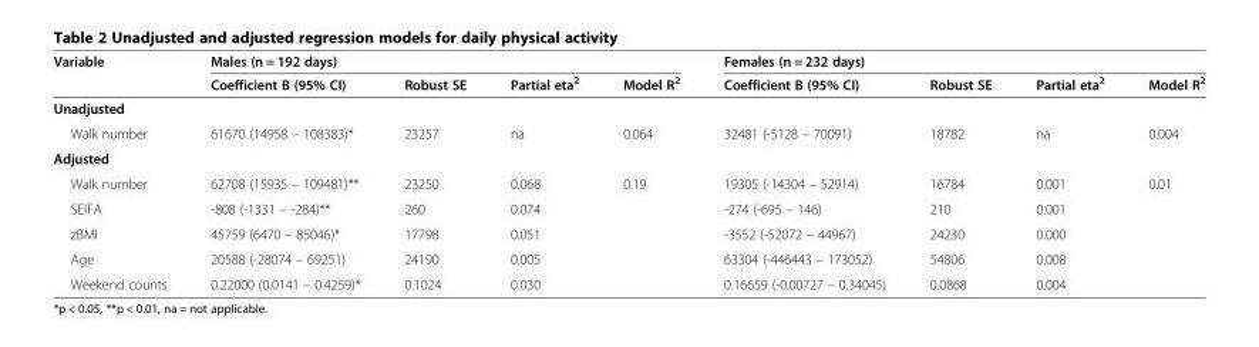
<table><thead><tr><td rowspan="2">Variable</td><td colspan="4">Males (n = 192 days)</td><td colspan="4">Females (n = 232 days)</td></tr><tr><td>Coefficient B (95% CI)</td><td>Robust SE</td><td>Partial eta<sup>2</sup></td><td>Model R<sup>2</sup></td><td>Coefficient B (95% CI)</td><td>Robust SE</td><td>Partial eta<sup>2</sup></td><td>Model R<sup>2</sup></td></tr></thead><tbody><tr><td colspan="9">Unadjusted</td></tr><tr><td>Walk number</td><td>61670 (14958 – 108383)*</td><td>23257</td><td>na</td><td>0.064</td><td>32481 (-5128 – 70091)</td><td>18782</td><td>na</td><td>0.004</td></tr><tr><td colspan="9">Adjusted</td></tr><tr><td>Walk number</td><td>62708 (15935 – 109481)**</td><td>23250</td><td>0.068</td><td>0.19</td><td>19305 (-14304 – 52914)</td><td>16784</td><td>0.001</td><td>0.01</td></tr><tr><td>SEIFA</td><td>-808 (-1331 – -284)**</td><td>260</td><td>0.074</td><td></td><td>-274 (-695 – 146)</td><td>210</td><td>0.001</td><td></td></tr><tr><td>zBMI</td><td>45759 (6470 – 85046)*</td><td>17798</td><td>0.051</td><td></td><td>-3552 (-52072 – 44967)</td><td>24230</td><td>0.000</td><td></td></tr><tr><td>Age</td><td>20588 (-28074 – 69251)</td><td>24190</td><td>0.005</td><td></td><td>63304 (-446443 – 173052)</td><td>54806</td><td>0.008</td><td></td></tr><tr><td>Weekend counts</td><td>0.22000 (0.0141 – 0.4259)*</td><td>0.1024</td><td>0.030</td><td></td><td>0.16659 (-0.00727 – 0.34045)</td><td>0.0868</td><td>0.004</td><td></td></tr></tbody></table>